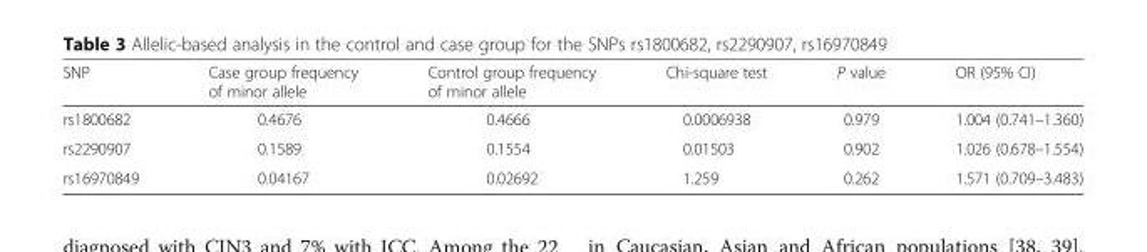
<table><thead><tr><td>SNP</td><td>Case group frequency of minor allele</td><td>Control group frequency of minor allele</td><td>Chi-square test</td><td>P value</td><td>OR (95% CI)</td></tr></thead><tbody><tr><td>rs1800682</td><td>0.4676</td><td>0.4666</td><td>0.0006938</td><td>0.979</td><td>1.004 (0.741–1.360)</td></tr><tr><td>rs2290907</td><td>0.1589</td><td>0.1554</td><td>0.01503</td><td>0.902</td><td>1.026 (0.678–1.554)</td></tr><tr><td>rs16970849</td><td>0.04167</td><td>0.02692</td><td>1.259</td><td>0.262</td><td>1.571 (0.709–3.483)</td></tr></tbody></table>